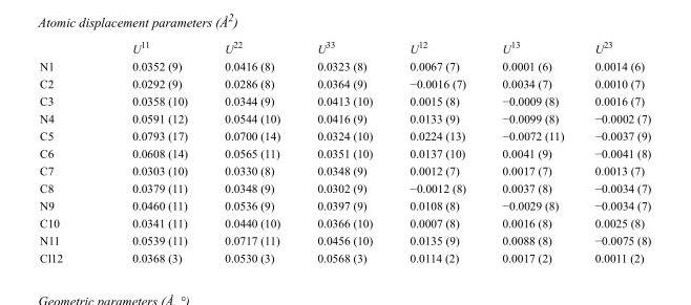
<table><thead><tr><td></td><td>U<sup>11</sup></td><td>U<sup>22</sup></td><td>U<sup>33</sup></td><td>U<sup>12</sup></td><td>U<sup>13</sup></td><td>U<sup>23</sup></td></tr></thead><tbody><tr><td>N1</td><td>0.0352 (9)</td><td>0.0416 (8)</td><td>0.0323 (8)</td><td>0.0067 (7)</td><td>0.0001 (6)</td><td>0.0014 (6)</td></tr><tr><td>C2</td><td>0.0292 (9)</td><td>0.0286 (8)</td><td>0.0364 (9)</td><td>−0.0016 (7)</td><td>0.0034 (7)</td><td>0.0010 (7)</td></tr><tr><td>C3</td><td>0.0358 (10)</td><td>0.0344 (9)</td><td>0.0413 (10)</td><td>0.0015 (8)</td><td>−0.0009 (8)</td><td>0.0016 (7)</td></tr><tr><td>N4</td><td>0.0591 (12)</td><td>0.0544 (10)</td><td>0.0416 (9)</td><td>0.0133 (9)</td><td>−0.0099 (8)</td><td>−0.0002 (7)</td></tr><tr><td>C5</td><td>0.0793 (17)</td><td>0.0700 (14)</td><td>0.0324 (10)</td><td>0.0224 (13)</td><td>−0.0072 (11)</td><td>−0.0037 (9)</td></tr><tr><td>C6</td><td>0.0608 (14)</td><td>0.0565 (11)</td><td>0.0351 (10)</td><td>0.0137 (10)</td><td>0.0041 (9)</td><td>−0.0041 (8)</td></tr><tr><td>C7</td><td>0.0303 (10)</td><td>0.0330 (8)</td><td>0.0348 (9)</td><td>0.0012 (7)</td><td>0.0017 (7)</td><td>0.0013 (7)</td></tr><tr><td>C8</td><td>0.0379 (11)</td><td>0.0348 (9)</td><td>0.0302 (9)</td><td>−0.0012 (8)</td><td>0.0037 (8)</td><td>−0.0034 (7)</td></tr><tr><td>N9</td><td>0.0460 (11)</td><td>0.0536 (9)</td><td>0.0397 (9)</td><td>0.0108 (8)</td><td>−0.0029 (8)</td><td>−0.0034 (7)</td></tr><tr><td>C10</td><td>0.0341 (11)</td><td>0.0440 (10)</td><td>0.0366 (10)</td><td>0.0007 (8)</td><td>0.0016 (8)</td><td>0.0025 (8)</td></tr><tr><td>N11</td><td>0.0539 (11)</td><td>0.0717 (11)</td><td>0.0456 (10)</td><td>0.0135 (9)</td><td>0.0088 (8)</td><td>−0.0075 (8)</td></tr><tr><td>Cl12</td><td>0.0368 (3)</td><td>0.0530 (3)</td><td>0.0568 (3)</td><td>0.0114 (2)</td><td>0.0017 (2)</td><td>0.0011 (2)</td></tr></tbody></table>